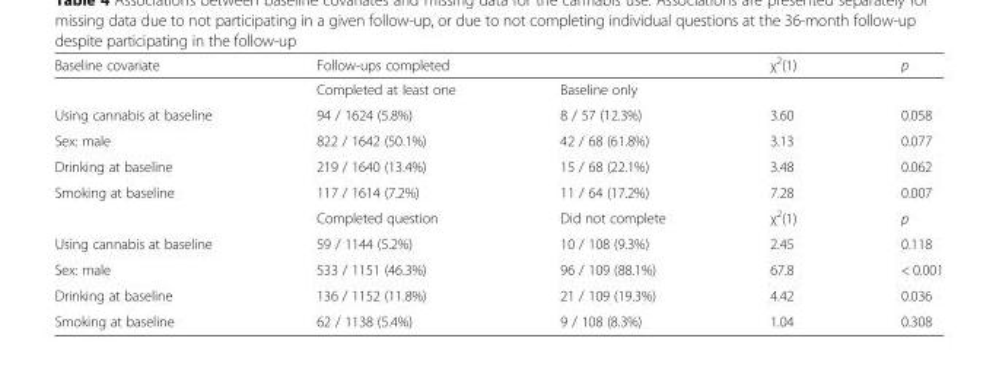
<table><thead><tr><td rowspan="2">Baseline covariate</td><td colspan="2">Follow-ups completed</td><td rowspan="2">χ<sup>2</sup>(1)</td><td rowspan="2">p</td></tr><tr><td>Completed at least one</td><td>Baseline only</td></tr></thead><tbody><tr><td>Using cannabis at baseline</td><td>94 / 1624 (5.8%)</td><td>8 / 57 (12.3%)</td><td>3.60</td><td>0.058</td></tr><tr><td>Sex: male</td><td>822 / 1642 (50.1%)</td><td>42 / 68 (61.8%)</td><td>3.13</td><td>0.077</td></tr><tr><td>Drinking at baseline</td><td>219 / 1640 (13.4%)</td><td>15 / 68 (22.1%)</td><td>3.48</td><td>0.062</td></tr><tr><td rowspan="2">Smoking at baseline</td><td>117 / 1614 (7.2%)</td><td>11 / 64 (17.2%)</td><td>7.28</td><td>0.007</td></tr><tr><td>Completed question</td><td>Did not complete</td><td>χ<sup>2</sup>(1)</td><td>p</td></tr><tr><td>Using cannabis at baseline</td><td>59 / 1144 (5.2%)</td><td>10 / 108 (9.3%)</td><td>2.45</td><td>0.118</td></tr><tr><td>Sex: male</td><td>533 / 1151 (46.3%)</td><td>96 / 109 (88.1%)</td><td>67.8</td><td>&lt; 0.001</td></tr><tr><td>Drinking at baseline</td><td>136 / 1152 (11.8%)</td><td>21 / 109 (19.3%)</td><td>4.42</td><td>0.036</td></tr><tr><td>Smoking at baseline</td><td>62 / 1138 (5.4%)</td><td>9 / 108 (8.3%)</td><td>1.04</td><td>0.308</td></tr></tbody></table>